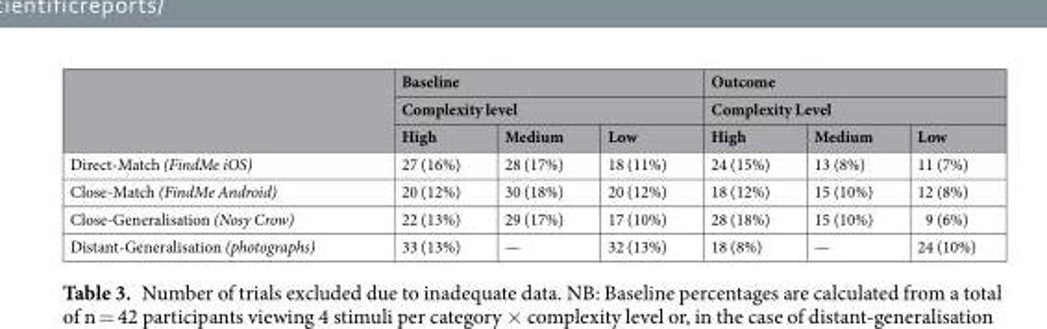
<table><thead><tr><td rowspan="3"></td><td rowspan="2" colspan="3">Baseline Complexity level</td><td rowspan="2" colspan="3">Outcome Complexity Level</td></tr><tr></tr><tr><td>High</td><td>Medium</td><td>Low</td><td>High</td><td>Medium</td><td>Low</td></tr></thead><tbody><tr><td>Direct-Match (FindMe iOS)</td><td>27 (16%)</td><td>28 (17%)</td><td>18 (11%)</td><td>24 (15%)</td><td>13 (8%)</td><td>11 (7%)</td></tr><tr><td>Close-Match (FindMe Android)</td><td>20 (12%)</td><td>30 (18%)</td><td>20 (12%)</td><td>18 (12%)</td><td>15 (10%)</td><td>12 (8%)</td></tr><tr><td>Close-Generalisation (Nosy Crow)</td><td>22 (13%)</td><td>29 (17%)</td><td>17 (10%)</td><td>28 (18%)</td><td>15 (10%)</td><td>9 (6%)</td></tr><tr><td>Distant-Generalisation (photographs)</td><td>33 (13%)</td><td>—</td><td>32 (13%)</td><td>18 (8%)</td><td>—</td><td>24 (10%)</td></tr></tbody></table>